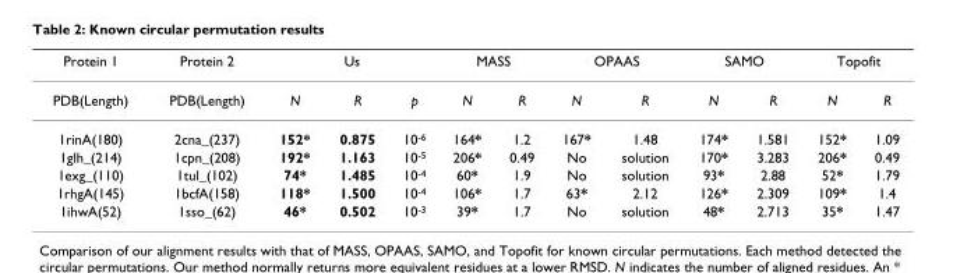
<table><thead><tr><td rowspan="2">Protein 1 PDB(Length)</td><td rowspan="2">Protein 2 PDB(Length)</td><td colspan="3">Us</td><td colspan="2">MASS</td><td colspan="2">OPAAS</td><td colspan="2">SAMO</td><td colspan="2">Topofit</td></tr><tr><td>N</td><td>R</td><td>p</td><td>N</td><td>R</td><td>N</td><td>R</td><td>N</td><td>R</td><td>N</td><td>R</td></tr></thead><tbody><tr><td>1rinA(180)</td><td>2cna_(237)</td><td>152*</td><td>0.875</td><td>10<sup>-6</sup></td><td>164*</td><td>1.2</td><td>167*</td><td>1.48</td><td>174*</td><td>1.581</td><td>152*</td><td>1.09</td></tr><tr><td>1glh_(214)</td><td>1cpn_(208)</td><td>192*</td><td>1.163</td><td>10<sup>-5</sup></td><td>206*</td><td>0.49</td><td>No</td><td>solution</td><td>170*</td><td>3.283</td><td>206*</td><td>0.49</td></tr><tr><td>1exg_(110)</td><td>1tul_(102)</td><td>74*</td><td>1.485</td><td>10<sup>-4</sup></td><td>60*</td><td>1.9</td><td>No</td><td>solution</td><td>93*</td><td>2.88</td><td>52*</td><td>1.79</td></tr><tr><td>1rhgA(145)</td><td>1bcfA(158)</td><td>118*</td><td>1.500</td><td>10<sup>-4</sup></td><td>106*</td><td>1.7</td><td>63*</td><td>2.12</td><td>126*</td><td>2.309</td><td>109*</td><td>1.4</td></tr><tr><td>1ihwA(52)</td><td>1sso_(62)</td><td>46*</td><td>0.502</td><td>10<sup>-3</sup></td><td>39*</td><td>1.7</td><td>No</td><td>solution</td><td>48*</td><td>2.713</td><td>35*</td><td>1.47</td></tr></tbody></table>